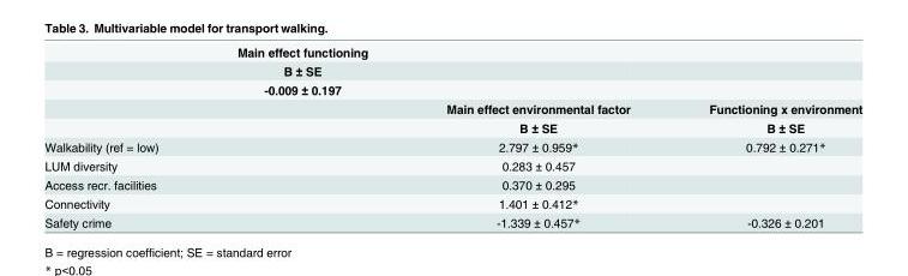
<table><thead><tr><td></td><td>Main effect functioning</td><td></td><td></td></tr></thead><tbody><tr><td></td><td>B ± SE</td><td></td><td></td></tr><tr><td></td><td>-0.009 ± 0.197</td><td></td><td></td></tr><tr><td></td><td></td><td>Main effect environmental factor</td><td>Functioning x environment</td></tr><tr><td></td><td></td><td>B ± SE</td><td>B ± SE</td></tr><tr><td>Walkability (ref = low)</td><td></td><td>2.797 ± 0.959*</td><td>0.792 ± 0.271*</td></tr><tr><td>LUM diversity</td><td></td><td>0.283 ± 0.457</td><td></td></tr><tr><td>Access recr. facilities</td><td></td><td>0.370 ± 0.295</td><td></td></tr><tr><td>Connectivity</td><td></td><td>1.401 ± 0.412*</td><td></td></tr><tr><td>Safety crime</td><td></td><td>-1.339 ± 0.457*</td><td>-0.326 ± 0.201</td></tr></tbody></table>